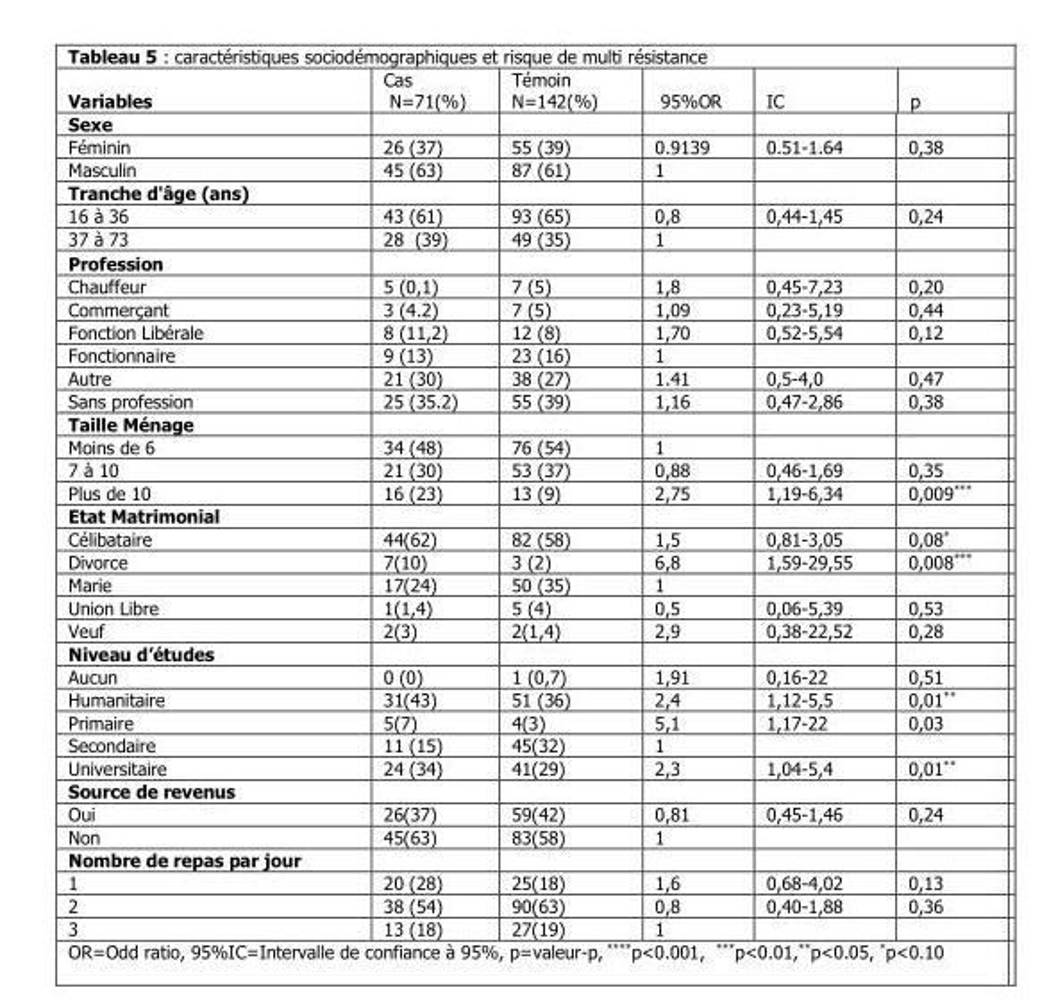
<table><thead><tr><td>Variables</td><td>Cas N=71(%)</td><td>Témoin N=142(%)</td><td>95%OR</td><td>IC</td><td>p</td></tr></thead><tbody><tr><td colspan="6">Sexe</td></tr><tr><td>Féminin</td><td>26 (37)</td><td>55 (39)</td><td>0.9139</td><td>0.51-1.64</td><td>0,38</td></tr><tr><td>Masculin</td><td>45 (63)</td><td>87 (61)</td><td>1</td><td></td><td></td></tr><tr><td colspan="6">Tranche d&#x27;âge (ans)</td></tr><tr><td>16 à 36</td><td>43 (61)</td><td>93 (65)</td><td>0,8</td><td>0,44-1,45</td><td>0,24</td></tr><tr><td>37 à 73</td><td>28 (39)</td><td>49 (35)</td><td>1</td><td></td><td></td></tr><tr><td colspan="6">Profession</td></tr><tr><td>Chauffeur</td><td>5 (0,1)</td><td>7 (5)</td><td>1,8</td><td>0,45-7,23</td><td>0,20</td></tr><tr><td>Commerçant</td><td>3 (4.2)</td><td>7 (5)</td><td>1,09</td><td>0,23-5,19</td><td>0,44</td></tr><tr><td>Fonction Libérale</td><td>8 (11,2)</td><td>12 (8)</td><td>1,70</td><td>0,52-5,54</td><td>0,12</td></tr><tr><td>Fonctionnaire</td><td>9 (13)</td><td>23 (16)</td><td>1</td><td></td><td></td></tr><tr><td>Autre</td><td>21 (30)</td><td>38 (27)</td><td>1.41</td><td>0,5-4,0</td><td>0,47</td></tr><tr><td>Sans profession</td><td>25 (35.2)</td><td>55 (39)</td><td>1,16</td><td>0,47-2,86</td><td>0,38</td></tr><tr><td colspan="6">Taille Ménage</td></tr><tr><td>Moins de 6</td><td>34 (48)</td><td>76 (54)</td><td>1</td><td></td><td></td></tr><tr><td>7 à 10</td><td>21 (30)</td><td>53 (37)</td><td>0,88</td><td>0,46-1,69</td><td>0,35</td></tr><tr><td>Plus de 10</td><td>16 (23)</td><td>13 (9)</td><td>2,75</td><td>1,19-6,34</td><td>0,009***</td></tr><tr><td colspan="6">Etat Matrimonial</td></tr><tr><td>Célibataire</td><td>44(62)</td><td>82 (58)</td><td>1,5</td><td>0,81-3,05</td><td>0,08*</td></tr><tr><td>Divorce</td><td>7(10)</td><td>3 (2)</td><td>6,8</td><td>1,59-29,55</td><td>0,008***</td></tr><tr><td>Marie</td><td>17(24)</td><td>50 (35)</td><td>1</td><td></td><td></td></tr><tr><td>Union Libre</td><td>1(1,4)</td><td>5 (4)</td><td>0,5</td><td>0,06-5,39</td><td>0,53</td></tr><tr><td>Veuf</td><td>2(3)</td><td>2(1,4)</td><td>2,9</td><td>0,38-22,52</td><td>0,28</td></tr><tr><td colspan="6">Niveau d’études</td></tr><tr><td>Aucun</td><td>0 (0)</td><td>1 (0,7)</td><td>1,91</td><td>0,16-22</td><td>0,51</td></tr><tr><td>Humanitaire</td><td>31(43)</td><td>51 (36)</td><td>2,4</td><td>1,12-5,5</td><td>0,01**</td></tr><tr><td>Primaire</td><td>5(7)</td><td>4(3)</td><td>5,1</td><td>1,17-22</td><td>0,03</td></tr><tr><td>Secondaire</td><td>11 (15)</td><td>45(32)</td><td>1</td><td></td><td></td></tr><tr><td>Universitaire</td><td>24 (34)</td><td>41(29)</td><td>2,3</td><td>1,04-5,4</td><td>0,01**</td></tr><tr><td colspan="6">Source de revenus</td></tr><tr><td>Oui</td><td>26(37)</td><td>59(42)</td><td>0,81</td><td>0,45-1,46</td><td>0,24</td></tr><tr><td>Non</td><td>45(63)</td><td>83(58)</td><td>1</td><td></td><td></td></tr><tr><td colspan="6">Nombre de repas par jour</td></tr><tr><td>1</td><td>20 (28)</td><td>25(18)</td><td>1,6</td><td>0,68-4,02</td><td>0,13</td></tr><tr><td>2</td><td>38 (54)</td><td>90(63)</td><td>0,8</td><td>0,40-1,88</td><td>0,36</td></tr><tr><td>3</td><td>13 (18)</td><td>27(19)</td><td>1</td><td></td><td></td></tr></tbody></table>